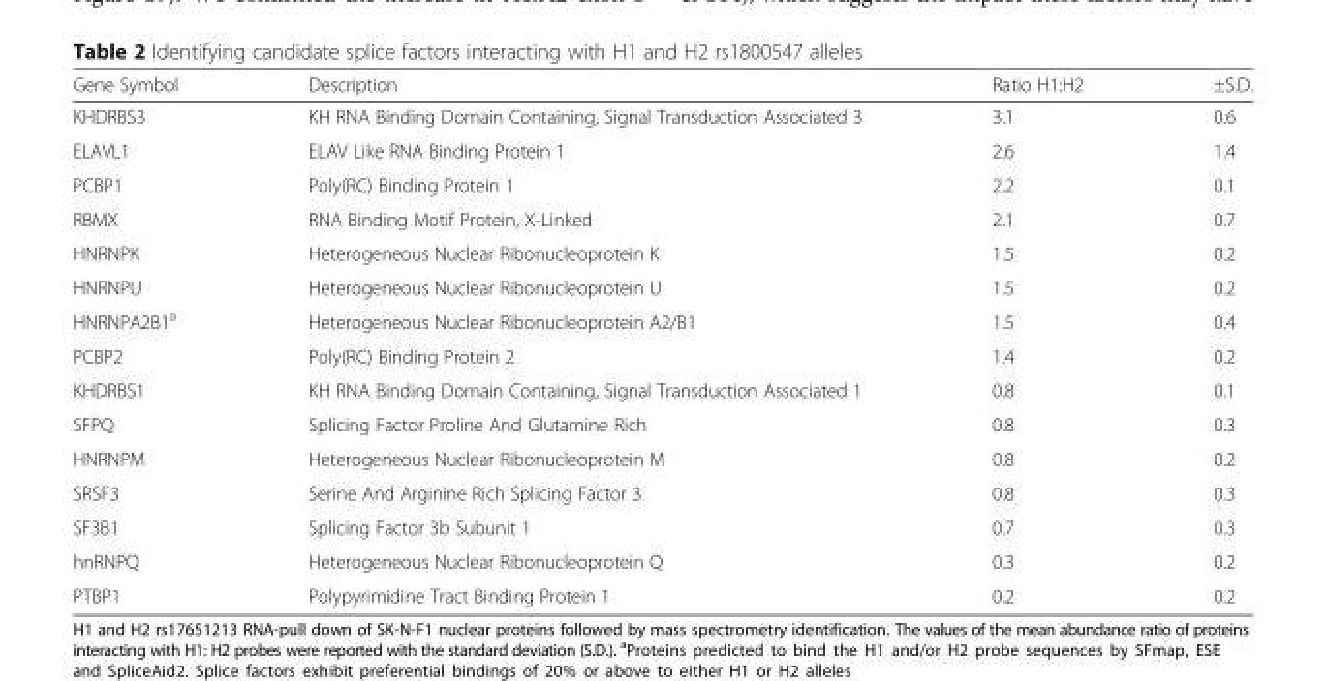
<table><thead><tr><td>Gene Symbol</td><td>Description</td><td>Ratio H1:H2</td><td>±S.D.</td></tr></thead><tbody><tr><td>KHDRBS3</td><td>KH RNA Binding Domain Containing, Signal Transduction Associated 3</td><td>3.1</td><td>0.6</td></tr><tr><td>ELAVL1</td><td>ELAV Like RNA Binding Protein 1</td><td>2.6</td><td>1.4</td></tr><tr><td>PCBP1</td><td>Poly(RC) Binding Protein 1</td><td>2.2</td><td>0.1</td></tr><tr><td>RBMX</td><td>RNA Binding Motif Protein, X-Linked</td><td>2.1</td><td>0.7</td></tr><tr><td>HNRNPK</td><td>Heterogeneous Nuclear Ribonucleoprotein K</td><td>1.5</td><td>0.2</td></tr><tr><td>HNRNPU</td><td>Heterogeneous Nuclear Ribonucleoprotein U</td><td>1.5</td><td>0.2</td></tr><tr><td>HNRNPA2B1<sup>a</sup></td><td>Heterogeneous Nuclear Ribonucleoprotein A2/B1</td><td>1.5</td><td>0.4</td></tr><tr><td>PCBP2</td><td>Poly(RC) Binding Protein 2</td><td>1.4</td><td>0.2</td></tr><tr><td>KHDRBS1</td><td>KH RNA Binding Domain Containing, Signal Transduction Associated 1</td><td>0.8</td><td>0.1</td></tr><tr><td>SFPQ</td><td>Splicing Factor Proline And Glutamine Rich</td><td>0.8</td><td>0.3</td></tr><tr><td>HNRNPM</td><td>Heterogeneous Nuclear Ribonucleoprotein M</td><td>0.8</td><td>0.2</td></tr><tr><td>SRSF3</td><td>Serine And Arginine Rich Splicing Factor 3</td><td>0.8</td><td>0.3</td></tr><tr><td>SF3B1</td><td>Splicing Factor 3b Subunit 1</td><td>0.7</td><td>0.3</td></tr><tr><td>hnRNPQ</td><td>Heterogeneous Nuclear Ribonucleoprotein Q</td><td>0.3</td><td>0.2</td></tr><tr><td>PTBP1</td><td>Polypyrimidine Tract Binding Protein 1</td><td>0.2</td><td>0.2</td></tr></tbody></table>